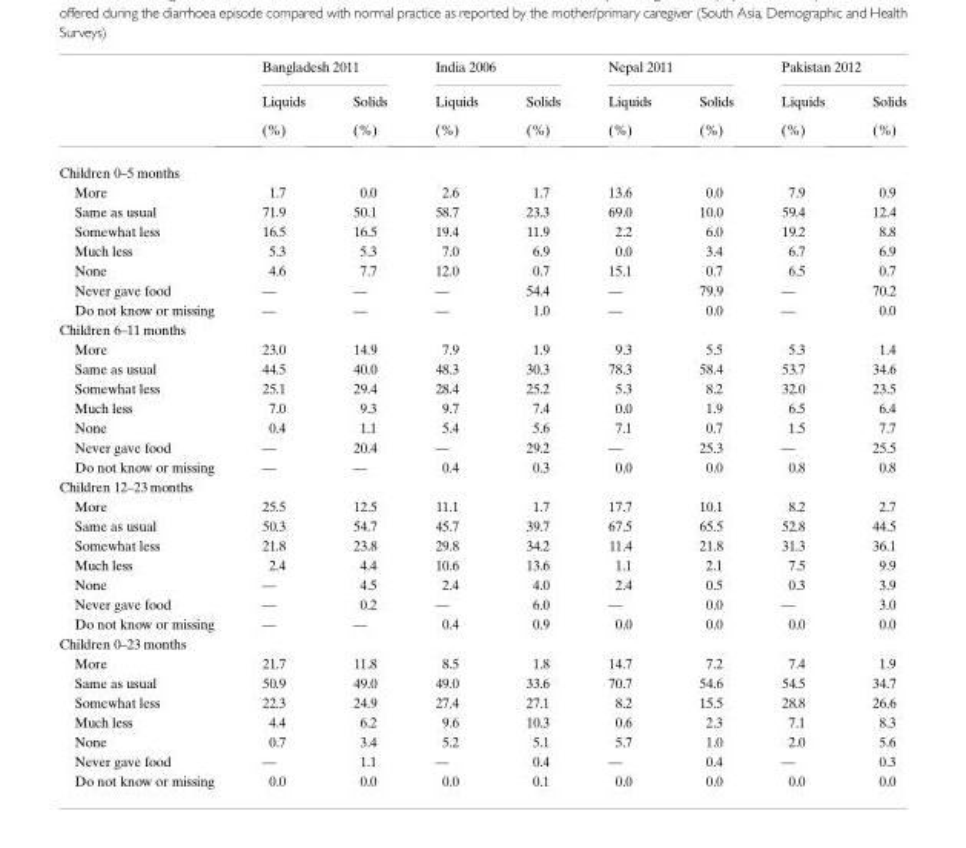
<table><thead><tr><td rowspan="3"></td><td colspan="2">Bangladesh 2011</td><td colspan="2">India 2006</td><td colspan="2">Nepal 2011</td><td colspan="2">Pakistan 2012</td></tr><tr><td rowspan="2">Liquids (%)</td><td rowspan="2">Solids (%)</td><td rowspan="2">Liquids (%)</td><td rowspan="2">Solids (%)</td><td rowspan="2">Liquids (%)</td><td rowspan="2">Solids (%)</td><td rowspan="2">Liquids (%)</td><td rowspan="2">Solids (%)</td></tr><tr></tr></thead><tbody><tr><td colspan="9">Children 0–5 months</td></tr><tr><td>More</td><td>1.7</td><td>0.0</td><td>2.6</td><td>1.7</td><td>13.6</td><td>0.0</td><td>7.9</td><td>0.9</td></tr><tr><td>Same as usual</td><td>71.9</td><td>50.1</td><td>58.7</td><td>23.3</td><td>69.0</td><td>10.0</td><td>59.4</td><td>12.4</td></tr><tr><td>Somewhat less</td><td>16.5</td><td>16.5</td><td>19.4</td><td>11.9</td><td>2.2</td><td>6.0</td><td>19.2</td><td>8.8</td></tr><tr><td>Much less</td><td>5.3</td><td>5.3</td><td>7.0</td><td>6.9</td><td>0.0</td><td>3.4</td><td>6.7</td><td>6.9</td></tr><tr><td>None</td><td>4.6</td><td>7.7</td><td>12.0</td><td>0.7</td><td>15.1</td><td>0.7</td><td>6.5</td><td>0.7</td></tr><tr><td>Never gave food</td><td>—</td><td>—</td><td>—</td><td>54.4</td><td>—</td><td>79.9</td><td>—</td><td>70.2</td></tr><tr><td>Do not know or missing</td><td>—</td><td>—</td><td>—</td><td>1.0</td><td>—</td><td>0.0</td><td>—</td><td>0.0</td></tr><tr><td colspan="9">Children 6–11 months</td></tr><tr><td>More</td><td>23.0</td><td>14.9</td><td>7.9</td><td>1.9</td><td>9.3</td><td>5.5</td><td>5.3</td><td>1.4</td></tr><tr><td>Same as usual</td><td>44.5</td><td>40.0</td><td>48.3</td><td>30.3</td><td>78.3</td><td>58.4</td><td>53.7</td><td>34.6</td></tr><tr><td>Somewhat less</td><td>25.1</td><td>29.4</td><td>28.4</td><td>25.2</td><td>5.3</td><td>8.2</td><td>32.0</td><td>23.5</td></tr><tr><td>Much less</td><td>7.0</td><td>9.3</td><td>9.7</td><td>7.4</td><td>0.0</td><td>1.9</td><td>6.5</td><td>6.4</td></tr><tr><td>None</td><td>0.4</td><td>1.1</td><td>5.4</td><td>5.6</td><td>7.1</td><td>0.7</td><td>1.5</td><td>7.7</td></tr><tr><td>Never gave food</td><td>—</td><td>20.4</td><td>—</td><td>29.2</td><td>—</td><td>25.3</td><td>—</td><td>25.5</td></tr><tr><td>Do not know or missing</td><td>—</td><td>—</td><td>0.4</td><td>0.3</td><td>0.0</td><td>0.0</td><td>0.8</td><td>0.8</td></tr><tr><td colspan="9">Children 12–23 months</td></tr><tr><td>More</td><td>25.5</td><td>12.5</td><td>11.1</td><td>1.7</td><td>17.7</td><td>10.1</td><td>8.2</td><td>2.7</td></tr><tr><td>Same as usual</td><td>50.3</td><td>54.7</td><td>45.7</td><td>39.7</td><td>67.5</td><td>65.5</td><td>52.8</td><td>44.5</td></tr><tr><td>Somewhat less</td><td>21.8</td><td>23.8</td><td>29.8</td><td>34.2</td><td>11.4</td><td>21.8</td><td>31.3</td><td>36.1</td></tr><tr><td>Much less</td><td>2.4</td><td>4.4</td><td>10.6</td><td>13.6</td><td>1.1</td><td>2.1</td><td>7.5</td><td>9.9</td></tr><tr><td>None</td><td>—</td><td>4.5</td><td>2.4</td><td>4.0</td><td>2.4</td><td>0.5</td><td>0.3</td><td>3.9</td></tr><tr><td>Never gave food</td><td>—</td><td>0.2</td><td>—</td><td>6.0</td><td>—</td><td>0.0</td><td>—</td><td>3.0</td></tr><tr><td>Do not know or missing</td><td>—</td><td>—</td><td>0.4</td><td>0.9</td><td>0.0</td><td>0.0</td><td>0.0</td><td>0.0</td></tr><tr><td colspan="9">Children 0–23 months</td></tr><tr><td>More</td><td>21.7</td><td>11.8</td><td>8.5</td><td>1.8</td><td>14.7</td><td>7.2</td><td>7.4</td><td>1.9</td></tr><tr><td>Same as usual</td><td>50.9</td><td>49.0</td><td>49.0</td><td>33.6</td><td>70.7</td><td>54.6</td><td>54.5</td><td>34.7</td></tr><tr><td>Somewhat less</td><td>22.3</td><td>24.9</td><td>27.4</td><td>27.1</td><td>8.2</td><td>15.5</td><td>28.8</td><td>26.6</td></tr><tr><td>Much less</td><td>4.4</td><td>6.2</td><td>9.6</td><td>10.3</td><td>0.6</td><td>2.3</td><td>7.1</td><td>8.3</td></tr><tr><td>None</td><td>0.7</td><td>3.4</td><td>5.2</td><td>5.1</td><td>5.7</td><td>1.0</td><td>2.0</td><td>5.6</td></tr><tr><td>Never gave food</td><td>—</td><td>1.1</td><td>—</td><td>0.4</td><td>—</td><td>0.4</td><td>—</td><td>0.3</td></tr><tr><td>Do not know or missing</td><td>0.0</td><td>0.0</td><td>0.0</td><td>0.1</td><td>0.0</td><td>0.0</td><td>0.0</td><td>0.0</td></tr></tbody></table>